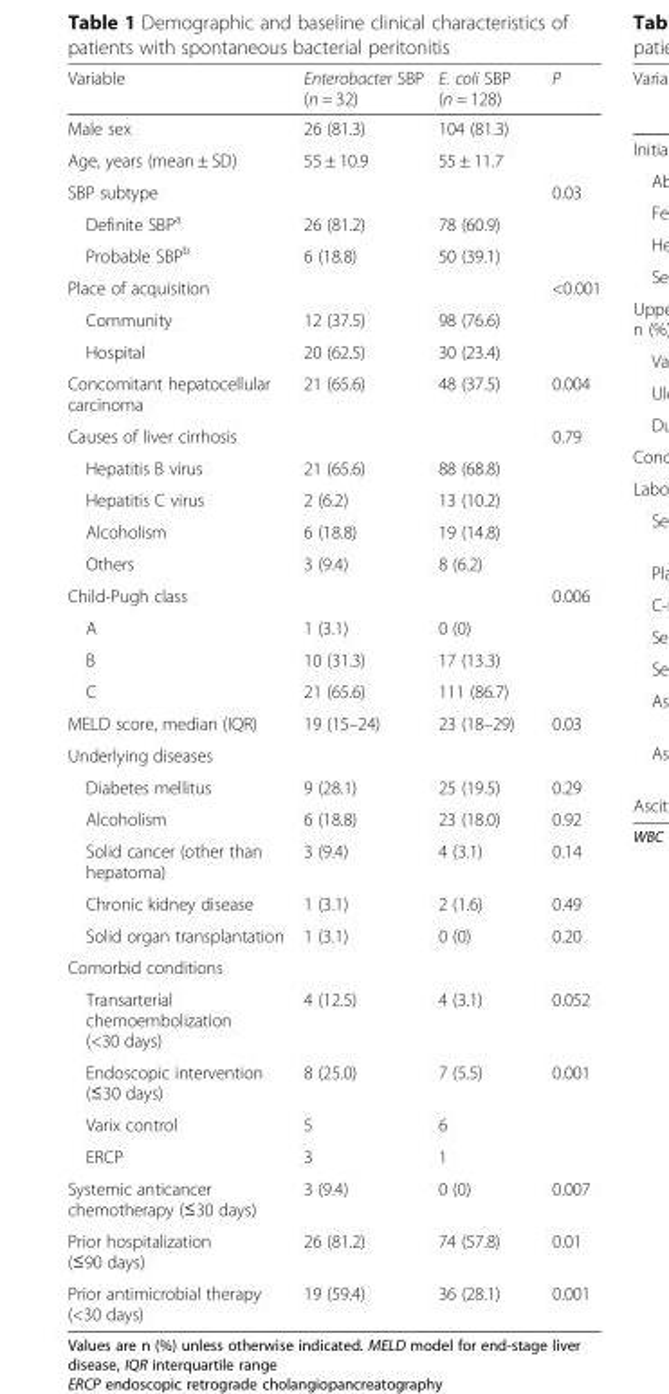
<table><thead><tr><td>Variable</td><td>Enterobacter SBP (n = 32)</td><td>E. coli SBP (n = 128)</td><td>P</td></tr></thead><tbody><tr><td>Male sex</td><td>26 (81.3)</td><td>104 (81.3)</td><td></td></tr><tr><td>Age, years (mean ± SD)</td><td>55 ± 10.9</td><td>55 ± 11.7</td><td></td></tr><tr><td>SBP subtype</td><td></td><td></td><td>0.03</td></tr><tr><td>Definite SBP<sup>a</sup></td><td>26 (81.2)</td><td>78 (60.9)</td><td></td></tr><tr><td>Probable SBP<sup>b</sup></td><td>6 (18.8)</td><td>50 (39.1)</td><td></td></tr><tr><td>Place of acquisition</td><td></td><td></td><td>&lt;0.001</td></tr><tr><td>Community</td><td>12 (37.5)</td><td>98 (76.6)</td><td></td></tr><tr><td>Hospital</td><td>20 (62.5)</td><td>30 (23.4)</td><td></td></tr><tr><td>Concomitant hepatocellular carcinoma</td><td>21 (65.6)</td><td>48 (37.5)</td><td>0.004</td></tr><tr><td>Causes of liver cirrhosis</td><td></td><td></td><td>0.79</td></tr><tr><td>Hepatitis B virus</td><td>21 (65.6)</td><td>88 (68.8)</td><td></td></tr><tr><td>Hepatitis C virus</td><td>2 (6.2)</td><td>13 (10.2)</td><td></td></tr><tr><td>Alcoholism</td><td>6 (18.8)</td><td>19 (14.8)</td><td></td></tr><tr><td>Others</td><td>3 (9.4)</td><td>8 (6.2)</td><td></td></tr><tr><td>Child-Pugh class</td><td></td><td></td><td>0.006</td></tr><tr><td>A</td><td>1 (3.1)</td><td>0 (0)</td><td></td></tr><tr><td>B</td><td>10 (31.3)</td><td>17 (13.3)</td><td></td></tr><tr><td>C</td><td>21 (65.6)</td><td>111 (86.7)</td><td></td></tr><tr><td>MELD score, median (IQR)</td><td>19 (15–24)</td><td>23 (18–29)</td><td>0.03</td></tr><tr><td colspan="4">Underlying diseases</td></tr><tr><td>Diabetes mellitus</td><td>9 (28.1)</td><td>25 (19.5)</td><td>0.29</td></tr><tr><td>Alcoholism</td><td>6 (18.8)</td><td>23 (18.0)</td><td>0.92</td></tr><tr><td>Solid cancer (other than hepatoma)</td><td>3 (9.4)</td><td>4 (3.1)</td><td>0.14</td></tr><tr><td>Chronic kidney disease</td><td>1 (3.1)</td><td>2 (1.6)</td><td>0.49</td></tr><tr><td>Solid organ transplantation</td><td>1 (3.1)</td><td>0 (0)</td><td>0.20</td></tr><tr><td colspan="4">Comorbid conditions</td></tr><tr><td>Transarterial chemoembolization (&lt;30 days)</td><td>4 (12.5)</td><td>4 (3.1)</td><td>0.052</td></tr><tr><td>Endoscopic intervention (≤30 days)</td><td>8 (25.0)</td><td>7 (5.5)</td><td>0.001</td></tr><tr><td>Varix control</td><td>5</td><td>6</td><td></td></tr><tr><td>ERCP</td><td>3</td><td>1</td><td></td></tr><tr><td>Systemic anticancer chemotherapy (≤30 days)</td><td>3 (9.4)</td><td>0 (0)</td><td>0.007</td></tr><tr><td>Prior hospitalization (≤90 days)</td><td>26 (81.2)</td><td>74 (57.8)</td><td>0.01</td></tr><tr><td>Prior antimicrobial therapy (&lt;30 days)</td><td>19 (59.4)</td><td>36 (28.1)</td><td>0.001</td></tr></tbody></table>